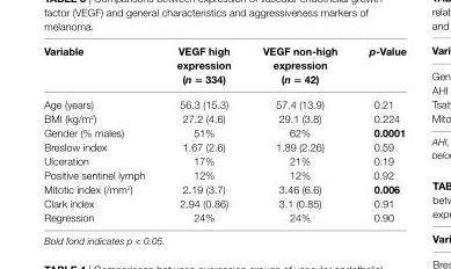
<table><thead><tr><td>Variable</td><td>VegF high expression (n = 334)</td><td>VegF non-high expression (n = 42)</td><td>p-Value</td></tr></thead><tbody><tr><td>Age (years)</td><td>56.3 (15.3)</td><td>57.4 (13.9)</td><td>0.21</td></tr><tr><td>BMI (kg/m<sup>2</sup>)</td><td>27.2 (4.6)</td><td>29.1 (3.8)</td><td>0.224</td></tr><tr><td>Gender (% males)</td><td>51%</td><td>62%</td><td>0.0001</td></tr><tr><td>Breslow index</td><td>1.67 (2.6)</td><td>1.89 (2.26)</td><td>0.59</td></tr><tr><td>Ulceration</td><td>17%</td><td>21%</td><td>0.19</td></tr><tr><td>Positive sentinel lymph</td><td>12%</td><td>12%</td><td>0.92</td></tr><tr><td>Mitotic index (/mm<sup>2</sup>)</td><td>2.19 (3.7)</td><td>3.46 (6.6)</td><td>0.006</td></tr><tr><td>Clark index</td><td>2.94 (0.86)</td><td>3.1 (0.85)</td><td>0.91</td></tr><tr><td>Regression</td><td>24%</td><td>24%</td><td>0.90</td></tr></tbody></table>